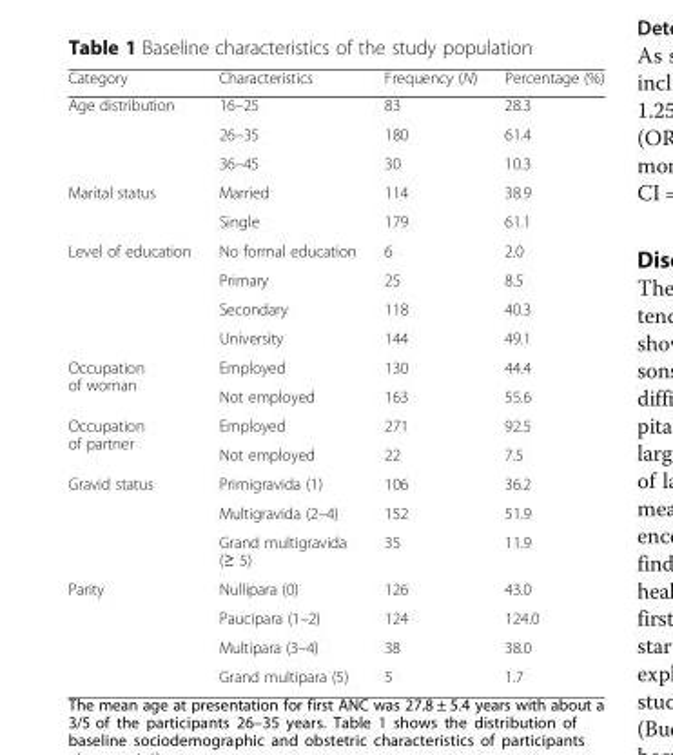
<table><thead><tr><td>Category</td><td>Characteristics</td><td>Frequency (N)</td><td>Percentage (%)</td></tr></thead><tbody><tr><td rowspan="3">Age distribution</td><td>16–25</td><td>83</td><td>28.3</td></tr><tr><td>26–35</td><td>180</td><td>61.4</td></tr><tr><td>36–45</td><td>30</td><td>10.3</td></tr><tr><td rowspan="2">Marital status</td><td>Married</td><td>114</td><td>38.9</td></tr><tr><td>Single</td><td>179</td><td>61.1</td></tr><tr><td rowspan="4">Level of education</td><td>No formal education</td><td>6</td><td>2.0</td></tr><tr><td>Primary</td><td>25</td><td>8.5</td></tr><tr><td>Secondary</td><td>118</td><td>40.3</td></tr><tr><td>University</td><td>144</td><td>49.1</td></tr><tr><td rowspan="2">Occupation of woman</td><td>Employed</td><td>130</td><td>44.4</td></tr><tr><td>Not employed</td><td>163</td><td>55.6</td></tr><tr><td rowspan="2">Occupation of partner</td><td>Employed</td><td>271</td><td>92.5</td></tr><tr><td>Not employed</td><td>22</td><td>7.5</td></tr><tr><td rowspan="3">Gravid status</td><td>Primigravida (1)</td><td>106</td><td>36.2</td></tr><tr><td>Multigravida (2–4)</td><td>152</td><td>51.9</td></tr><tr><td>Grand multigravida (≥ 5)</td><td>35</td><td>11.9</td></tr><tr><td rowspan="4">Parity</td><td>Nullipara (0)</td><td>126</td><td>43.0</td></tr><tr><td>Paucipara (1–2)</td><td>124</td><td>124.0</td></tr><tr><td>Multipara (3–4)</td><td>38</td><td>38.0</td></tr><tr><td>Grand multipara (5)</td><td>5</td><td>1.7</td></tr></tbody></table>